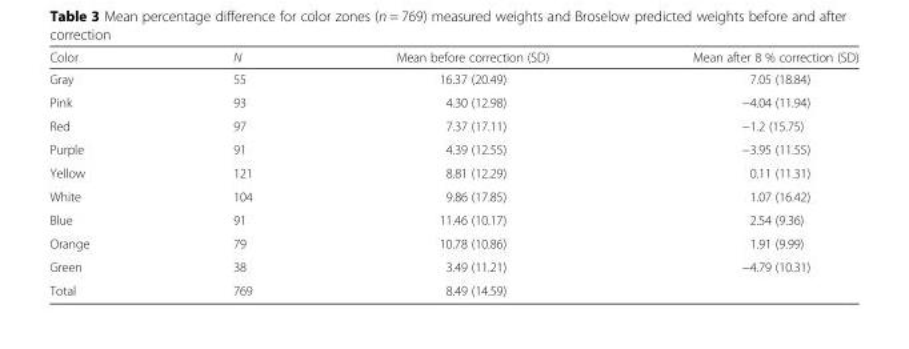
<table><thead><tr><td>Color</td><td>N</td><td>Mean before correction (SD)</td><td>Mean after 8 % correction (SD)</td></tr></thead><tbody><tr><td>Gray</td><td>55</td><td>16.37 (20.49)</td><td>7.05 (18.84)</td></tr><tr><td>Pink</td><td>93</td><td>4.30 (12.98)</td><td>−4.04 (11.94)</td></tr><tr><td>Red</td><td>97</td><td>7.37 (17.11)</td><td>−1.2 (15.75)</td></tr><tr><td>Purple</td><td>91</td><td>4.39 (12.55)</td><td>−3.95 (11.55)</td></tr><tr><td>Yellow</td><td>121</td><td>8.81 (12.29)</td><td>0.11 (11.31)</td></tr><tr><td>White</td><td>104</td><td>9.86 (17.85)</td><td>1.07 (16.42)</td></tr><tr><td>Blue</td><td>91</td><td>11.46 (10.17)</td><td>2.54 (9.36)</td></tr><tr><td>Orange</td><td>79</td><td>10.78 (10.86)</td><td>1.91 (9.99)</td></tr><tr><td>Green</td><td>38</td><td>3.49 (11.21)</td><td>−4.79 (10.31)</td></tr><tr><td>Total</td><td>769</td><td>8.49 (14.59)</td><td></td></tr></tbody></table>